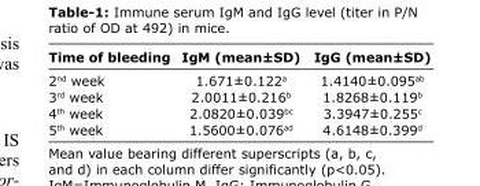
<table><thead><tr><td>Time of bleeding</td><td>IgM (mean±SD)</td><td>IgG (mean±SD)</td></tr></thead><tbody><tr><td>2<sup>nd</sup> week</td><td>1.671±0.122a</td><td>1.4140±0.095<sup>ab</sup></td></tr><tr><td>3<sup>rd</sup> week</td><td>2.0011±0.216<sup>b</sup></td><td>1.8268±0.119<sup>b</sup></td></tr><tr><td>4<sup>th</sup> week</td><td>2.0820±0.039<sup>bc</sup></td><td>3.3947±0.255<sup>c</sup></td></tr><tr><td>5<sup>th</sup> week</td><td>1.5600±0.076<sup>ad</sup></td><td>4.6148±0.399<sup>d</sup></td></tr></tbody></table>